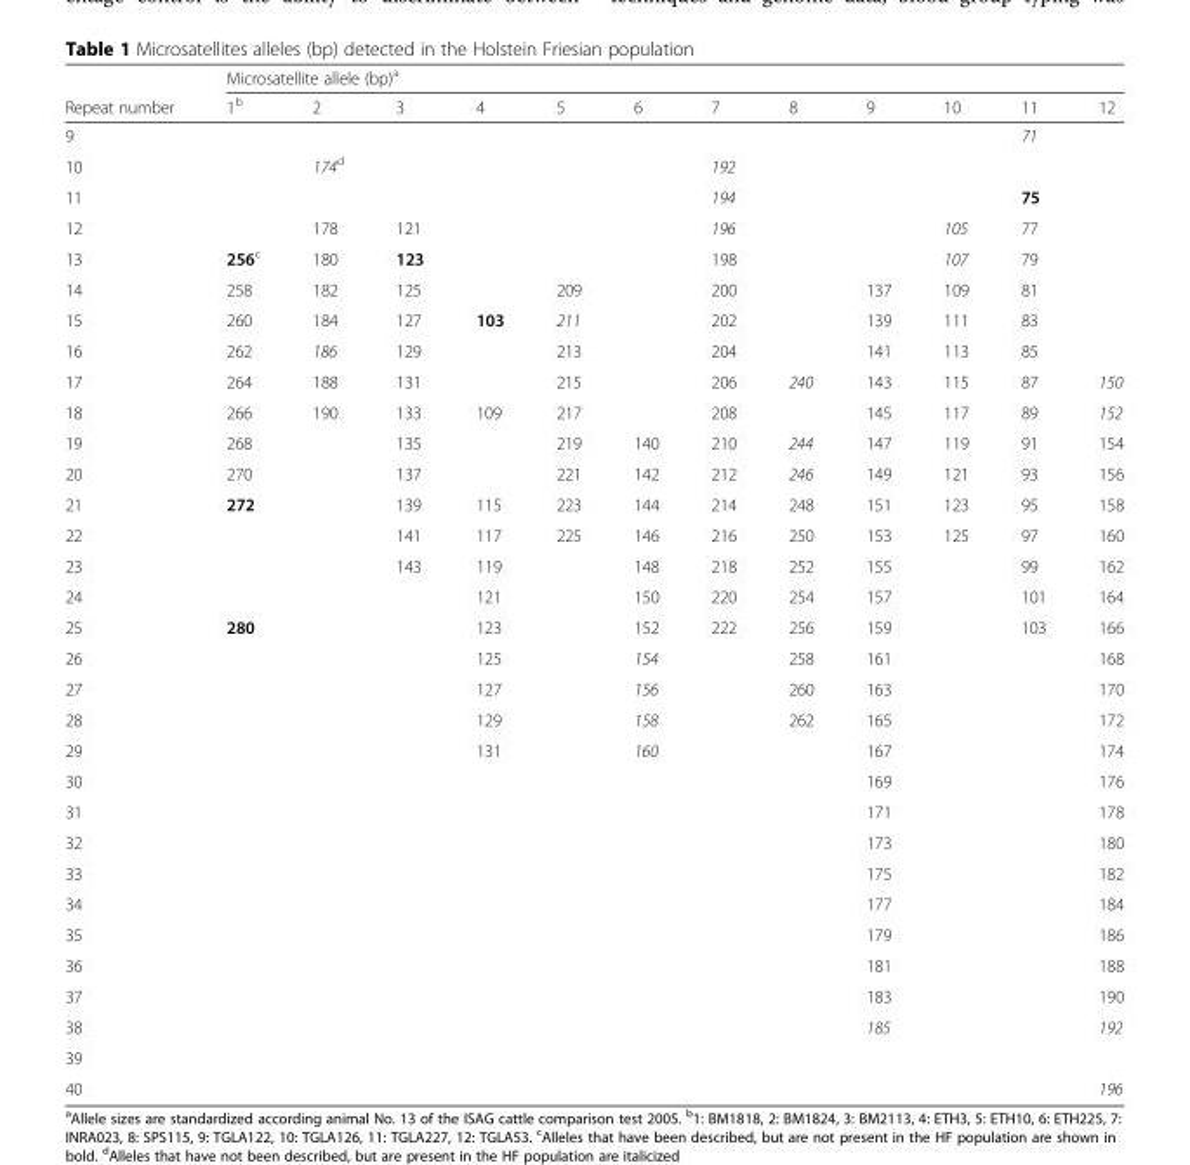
<table><thead><tr><td rowspan="2">Repeat number</td><td colspan="12">Microsatellite allele (bp)<sup>a</sup></td></tr><tr><td>1<sup>b</sup></td><td>2</td><td>3</td><td>4</td><td>5</td><td>6</td><td>7</td><td>8</td><td>9</td><td>10</td><td>11</td><td>12</td></tr></thead><tbody><tr><td>9</td><td></td><td></td><td></td><td></td><td></td><td></td><td></td><td></td><td></td><td></td><td>71</td><td></td></tr><tr><td>10</td><td></td><td>174<sup>d</sup></td><td></td><td></td><td></td><td></td><td>192</td><td></td><td></td><td></td><td></td><td></td></tr><tr><td>11</td><td></td><td></td><td></td><td></td><td></td><td></td><td>194</td><td></td><td></td><td></td><td>75</td><td></td></tr><tr><td>12</td><td></td><td>178</td><td>121</td><td></td><td></td><td></td><td>196</td><td></td><td></td><td>105</td><td>77</td><td></td></tr><tr><td>13</td><td>256<sup>c</sup></td><td>180</td><td>123</td><td></td><td></td><td></td><td>198</td><td></td><td></td><td>107</td><td>79</td><td></td></tr><tr><td>14</td><td>258</td><td>182</td><td>125</td><td></td><td>209</td><td></td><td>200</td><td></td><td>137</td><td>109</td><td>81</td><td></td></tr><tr><td>15</td><td>260</td><td>184</td><td>127</td><td>103</td><td>211</td><td></td><td>202</td><td></td><td>139</td><td>111</td><td>83</td><td></td></tr><tr><td>16</td><td>262</td><td>186</td><td>129</td><td></td><td>213</td><td></td><td>204</td><td></td><td>141</td><td>113</td><td>85</td><td></td></tr><tr><td>17</td><td>264</td><td>188</td><td>131</td><td></td><td>215</td><td></td><td>206</td><td>240</td><td>143</td><td>115</td><td>87</td><td>150</td></tr><tr><td>18</td><td>266</td><td>190</td><td>133</td><td>109</td><td>217</td><td></td><td>208</td><td></td><td>145</td><td>117</td><td>89</td><td>152</td></tr><tr><td>19</td><td>268</td><td></td><td>135</td><td></td><td>219</td><td>140</td><td>210</td><td>244</td><td>147</td><td>119</td><td>91</td><td>154</td></tr><tr><td>20</td><td>270</td><td></td><td>137</td><td></td><td>221</td><td>142</td><td>212</td><td>246</td><td>149</td><td>121</td><td>93</td><td>156</td></tr><tr><td>21</td><td>272</td><td></td><td>139</td><td>115</td><td>223</td><td>144</td><td>214</td><td>248</td><td>151</td><td>123</td><td>95</td><td>158</td></tr><tr><td>22</td><td></td><td></td><td>141</td><td>117</td><td>225</td><td>146</td><td>216</td><td>250</td><td>153</td><td>125</td><td>97</td><td>160</td></tr><tr><td>23</td><td></td><td></td><td>143</td><td>119</td><td></td><td>148</td><td>218</td><td>252</td><td>155</td><td></td><td>99</td><td>162</td></tr><tr><td>24</td><td></td><td></td><td></td><td>121</td><td></td><td>150</td><td>220</td><td>254</td><td>157</td><td></td><td>101</td><td>164</td></tr><tr><td>25</td><td>280</td><td></td><td></td><td>123</td><td></td><td>152</td><td>222</td><td>256</td><td>159</td><td></td><td>103</td><td>166</td></tr><tr><td>26</td><td></td><td></td><td></td><td>125</td><td></td><td>154</td><td></td><td>258</td><td>161</td><td></td><td></td><td>168</td></tr><tr><td>27</td><td></td><td></td><td></td><td>127</td><td></td><td>156</td><td></td><td>260</td><td>163</td><td></td><td></td><td>170</td></tr><tr><td>28</td><td></td><td></td><td></td><td>129</td><td></td><td>158</td><td></td><td>262</td><td>165</td><td></td><td></td><td>172</td></tr><tr><td>29</td><td></td><td></td><td></td><td>131</td><td></td><td>160</td><td></td><td></td><td>167</td><td></td><td></td><td>174</td></tr><tr><td>30</td><td></td><td></td><td></td><td></td><td></td><td></td><td></td><td></td><td>169</td><td></td><td></td><td>176</td></tr><tr><td>31</td><td></td><td></td><td></td><td></td><td></td><td></td><td></td><td></td><td>171</td><td></td><td></td><td>178</td></tr><tr><td>32</td><td></td><td></td><td></td><td></td><td></td><td></td><td></td><td></td><td>173</td><td></td><td></td><td>180</td></tr><tr><td>33</td><td></td><td></td><td></td><td></td><td></td><td></td><td></td><td></td><td>175</td><td></td><td></td><td>182</td></tr><tr><td>34</td><td></td><td></td><td></td><td></td><td></td><td></td><td></td><td></td><td>177</td><td></td><td></td><td>184</td></tr><tr><td>35</td><td></td><td></td><td></td><td></td><td></td><td></td><td></td><td></td><td>179</td><td></td><td></td><td>186</td></tr><tr><td>36</td><td></td><td></td><td></td><td></td><td></td><td></td><td></td><td></td><td>181</td><td></td><td></td><td>188</td></tr><tr><td>37</td><td></td><td></td><td></td><td></td><td></td><td></td><td></td><td></td><td>183</td><td></td><td></td><td>190</td></tr><tr><td>38</td><td></td><td></td><td></td><td></td><td></td><td></td><td></td><td></td><td>185</td><td></td><td></td><td>192</td></tr><tr><td colspan="13">39</td></tr><tr><td>40</td><td></td><td></td><td></td><td></td><td></td><td></td><td></td><td></td><td></td><td></td><td></td><td>196</td></tr></tbody></table>